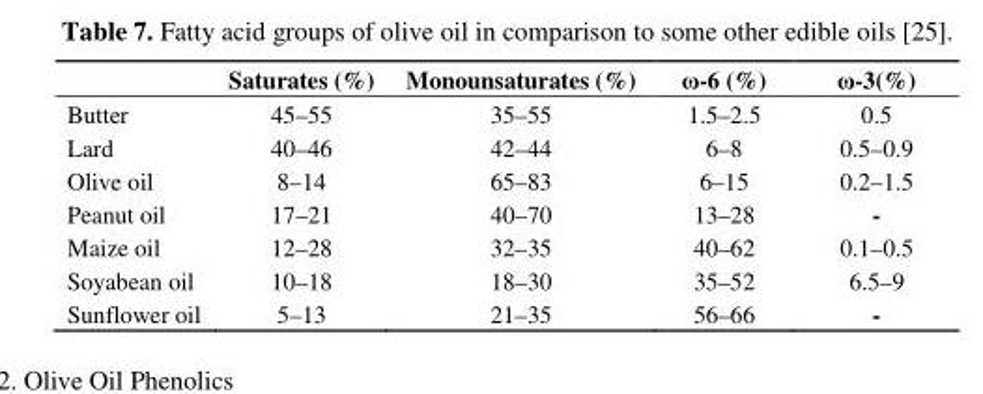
<table><thead><tr><td></td><td>Saturates (%)</td><td>Monounsaturates (%)</td><td>ω-6 (%)</td><td>ω-3(%)</td></tr></thead><tbody><tr><td>Butter</td><td>45–55</td><td>35–55</td><td>1.5–2.5</td><td>0.5</td></tr><tr><td>Lard</td><td>40–46</td><td>42–44</td><td>6–8</td><td>0.5–0.9</td></tr><tr><td>Olive oil</td><td>8–14</td><td>65–83</td><td>6–15</td><td>0.2–1.5</td></tr><tr><td>Peanut oil</td><td>17–21</td><td>40–70</td><td>13–28</td><td>-</td></tr><tr><td>Maize oil</td><td>12–28</td><td>32–35</td><td>40–62</td><td>0.1–0.5</td></tr><tr><td>Soyabean oil</td><td>10–18</td><td>18–30</td><td>35–52</td><td>6.5–9</td></tr><tr><td>Sunflower oil</td><td>5–13</td><td>21–35</td><td>56–66</td><td>-</td></tr></tbody></table>